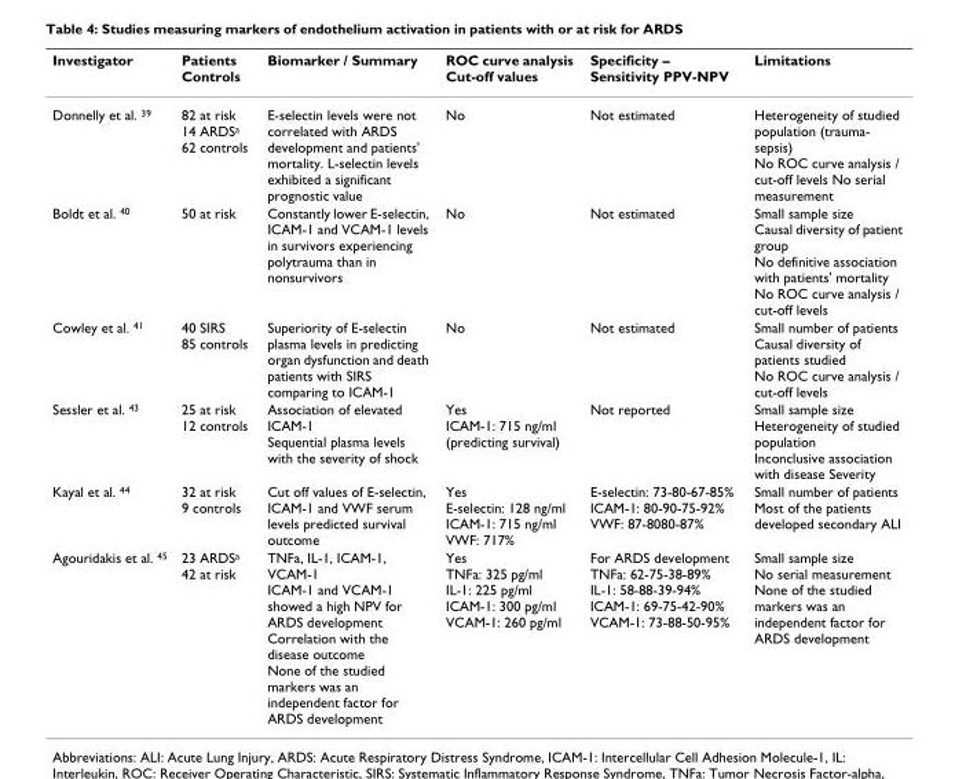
<table><thead><tr><td>Investigator</td><td>Patients Controls</td><td>Biomarker / Summary</td><td>ROC curve analysis Cut-off values</td><td>Specificity – Sensitivity PPV-NPV</td><td>Limitations</td></tr></thead><tbody><tr><td>Donnelly et al. <sup>39</sup></td><td>82 at risk 14 ARDS<sup>a</sup> 62 controls</td><td>E-selectin levels were not correlated with ARDS development and patients&#x27; mortality. L-selectin levels exhibited a significant prognostic value</td><td>No</td><td>Not estimated</td><td>Heterogeneity of studied population (trauma- sepsis) No ROC curve analysis / cut-off levels No serial measurement</td></tr><tr><td>Boldt et al. <sup>40</sup></td><td>50 at risk</td><td>Constantly lower E-selectin, ICAM-1 and VCAM-1 levels in survivors experiencing polytrauma than in nonsurvivors</td><td>No</td><td>Not estimated</td><td>Small sample size Causal diversity of patient group No definitive association with patients&#x27; mortality No ROC curve analysis / cut-off levels</td></tr><tr><td>Cowley et al. <sup>41</sup></td><td>40 SIRS 85 controls</td><td>Superiority of E-selectin plasma levels in predicting organ dysfunction and death patients with SIRS comparing to ICAM-1</td><td>No</td><td>Not estimated</td><td>Small number of patients Causal diversity of patients studied No ROC curve analysis / cut-off levels</td></tr><tr><td>Sessler et al. <sup>43</sup></td><td>25 at risk 12 controls</td><td>Association of elevated ICAM-1 Sequential plasma levels with the severity of shock</td><td>Yes ICAM-1: 715 ng/ml (predicting survival)</td><td>Not reported</td><td>Small sample size Heterogeneity of studied population Inconclusive association with disease Severity</td></tr><tr><td>Kayal et al. <sup>44</sup></td><td>32 at risk 9 controls</td><td>Cut off values of E-selectin, ICAM-1 and VWF serum levels predicted survival outcome</td><td>Yes E-selectin: 128 ng/ml ICAM-1: 715 ng/ml VWF: 717%</td><td>E-selectin: 73-80-67-85% ICAM-1: 80-90-75-92% VWF: 87-8080-87%</td><td>Small number of patients Most of the patients developed secondary ALI</td></tr><tr><td>Agouridakis et al. <sup>45</sup></td><td>23 ARDS<sup>a</sup> 42 at risk</td><td>TNFa, IL-1, ICAM-1, VCAM-1 ICAM-1 and VCAM-1 showed a high NPV for ARDS development Correlation with the disease outcome None of the studied markers was an independent factor for ARDS development</td><td>Yes TNFa: 325 pg/ml IL-1: 225 pg/ml ICAM-1: 300 pg/ml VCAM-1: 260 pg/ml</td><td>For ARDS development TNFa: 62-75-38-89% IL-1: 58-88-39-94% ICAM-1: 69-75-42-90% VCAM-1: 73-88-50-95%</td><td>Small sample size No serial measurement None of the studied markers was an independent factor for ARDS development</td></tr></tbody></table>